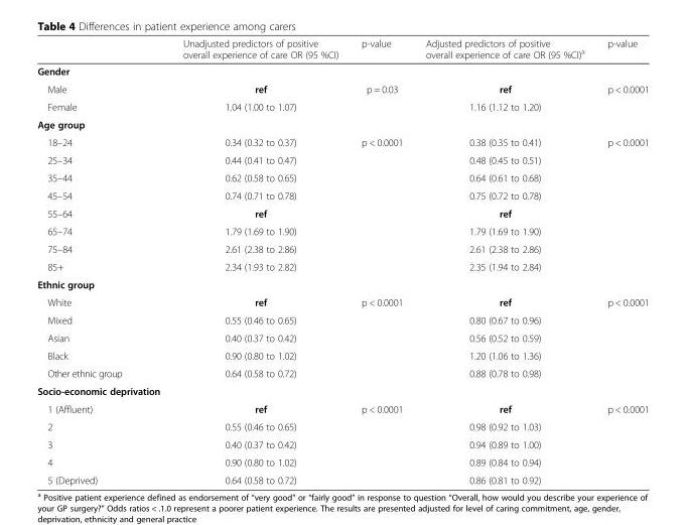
<table><thead><tr><td></td><td>Unadjusted predictors of positive overall experience of care OR (95 %CI)</td><td>p-value</td><td>Adjusted predictors of positive overall experience of care OR (95 %CI)<sup>a</sup></td><td>p-value</td></tr></thead><tbody><tr><td colspan="5">Gender</td></tr><tr><td>Male</td><td>ref</td><td rowspan="2">p = 0.03</td><td>ref</td><td rowspan="2">p &lt; 0.0001</td></tr><tr><td>Female</td><td>1.04 (1.00 to 1.07)</td><td>1.16 (1.12 to 1.20)</td></tr><tr><td colspan="5">Age group</td></tr><tr><td>18–24</td><td>0.34 (0.32 to 0.37)</td><td rowspan="8">p &lt; 0.0001</td><td>0.38 (0.35 to 0.41)</td><td rowspan="8">p &lt; 0.0001</td></tr><tr><td>25–34</td><td>0.44 (0.41 to 0.47)</td><td>0.48 (0.45 to 0.51)</td></tr><tr><td>35–44</td><td>0.62 (0.58 to 0.65)</td><td>0.64 (0.61 to 0.68)</td></tr><tr><td>45–54</td><td>0.74 (0.71 to 0.78)</td><td>0.75 (0.72 to 0.78)</td></tr><tr><td>55–64</td><td>ref</td><td>ref</td></tr><tr><td>65–74</td><td>1.79 (1.69 to 1.90)</td><td>1.79 (1.69 to 1.90)</td></tr><tr><td>75–84</td><td>2.61 (2.38 to 2.86)</td><td>2.61 (2.38 to 2.86)</td></tr><tr><td>85+</td><td>2.34 (1.93 to 2.82)</td><td>2.35 (1.94 to 2.84)</td></tr><tr><td colspan="5">Ethnic group</td></tr><tr><td>White</td><td>ref</td><td rowspan="5">p &lt; 0.0001</td><td>ref</td><td rowspan="5">p &lt; 0.0001</td></tr><tr><td>Mixed</td><td>0.55 (0.46 to 0.65)</td><td>0.80 (0.67 to 0.96)</td></tr><tr><td>Asian</td><td>0.40 (0.37 to 0.42)</td><td>0.56 (0.52 to 0.59)</td></tr><tr><td>Black</td><td>0.90 (0.80 to 1.02)</td><td>1.20 (1.06 to 1.36)</td></tr><tr><td>Other ethnic group</td><td>0.64 (0.58 to 0.72)</td><td>0.88 (0.78 to 0.98)</td></tr><tr><td colspan="5">Socio-economic deprivation</td></tr><tr><td>1 (Affluent)</td><td>ref</td><td rowspan="5">p &lt; 0.0001</td><td>ref</td><td rowspan="5">p &lt; 0.0001</td></tr><tr><td>2</td><td>0.55 (0.46 to 0.65)</td><td>0.98 (0.92 to 1.03)</td></tr><tr><td>3</td><td>0.40 (0.37 to 0.42)</td><td>0.94 (0.89 to 1.00)</td></tr><tr><td>4</td><td>0.90 (0.80 to 1.02)</td><td>0.89 (0.84 to 0.94)</td></tr><tr><td>5 (Deprived)</td><td>0.64 (0.58 to 0.72)</td><td>0.86 (0.81 to 0.92)</td></tr></tbody></table>